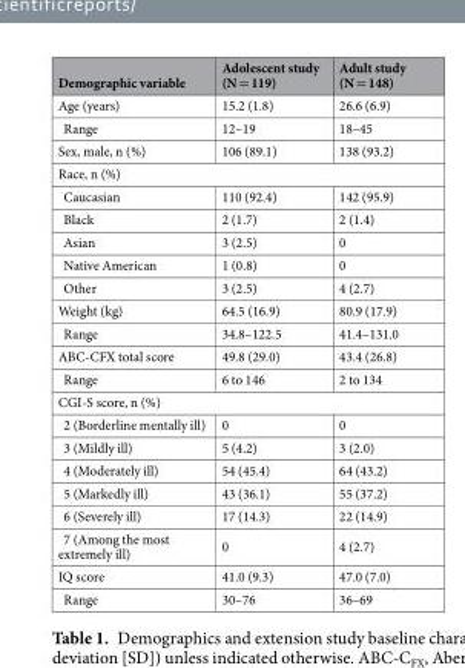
<table><thead><tr><td>Demographic variable</td><td>Adolescent study (N = 119)</td><td>Adult study (N = 148)</td></tr></thead><tbody><tr><td>Age (years)</td><td>15.2 (1.8)</td><td>26.6 (6.9)</td></tr><tr><td>Range</td><td>12–19</td><td>18–45</td></tr><tr><td>Sex, male, n (%)</td><td>106 (89.1)</td><td>138 (93.2)</td></tr><tr><td colspan="3">Race, n (%)</td></tr><tr><td>Caucasian</td><td>110 (92.4)</td><td>142 (95.9)</td></tr><tr><td>Black</td><td>2 (1.7)</td><td>2 (1.4)</td></tr><tr><td>Asian</td><td>3 (2.5)</td><td>0</td></tr><tr><td>Native American</td><td>1 (0.8)</td><td>0</td></tr><tr><td>Other</td><td>3 (2.5)</td><td>4 (2.7)</td></tr><tr><td>Weight (kg)</td><td>64.5 (16.9)</td><td>80.9 (17.9)</td></tr><tr><td>Range</td><td>34.8–122.5</td><td>41.4–131.0</td></tr><tr><td>ABC-CFX total score</td><td>49.8 (29.0)</td><td>43.4 (26.8)</td></tr><tr><td>Range</td><td>6 to 146</td><td>2 to 134</td></tr><tr><td colspan="3">CGI-S score, n (%)</td></tr><tr><td>2 (Borderline mentally ill)</td><td>0</td><td>0</td></tr><tr><td>3 (Mildly ill)</td><td>5 (4.2)</td><td>3 (2.0)</td></tr><tr><td>4 (Moderately ill)</td><td>54 (45.4)</td><td>64 (43.2)</td></tr><tr><td>5 (Markedly ill)</td><td>43 (36.1)</td><td>55 (37.2)</td></tr><tr><td>6 (Severely ill)</td><td>17 (14.3)</td><td>22 (14.9)</td></tr><tr><td>7 (Among the most extremely ill)</td><td>0</td><td>4 (2.7)</td></tr><tr><td>IQ score</td><td>41.0 (9.3)</td><td>47.0 (7.0)</td></tr><tr><td>Range</td><td>30–76</td><td>36–69</td></tr></tbody></table>